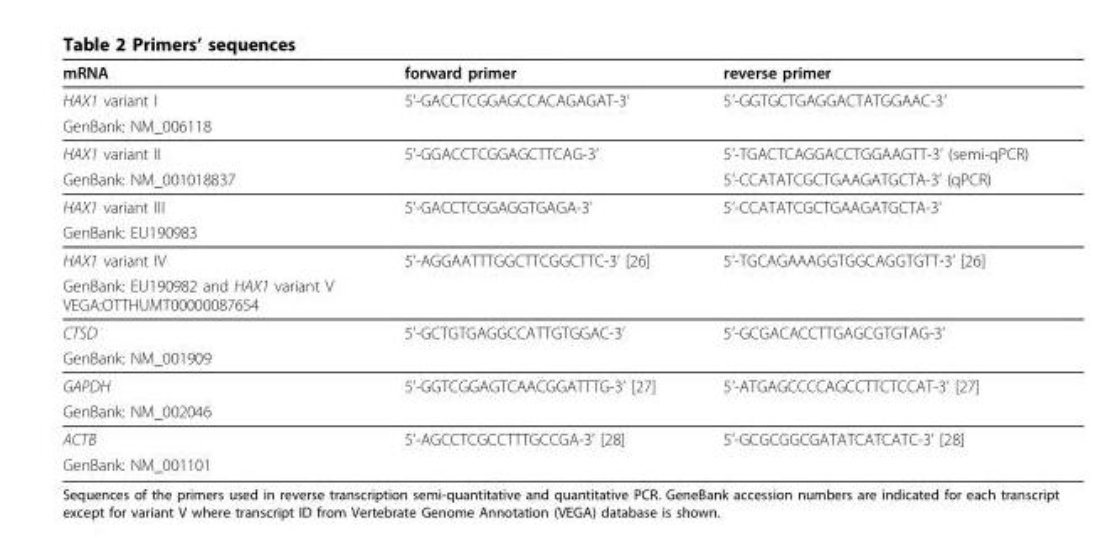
<table><thead><tr><td>mRNA</td><td>forward primer</td><td>reverse primer</td></tr></thead><tbody><tr><td>HAX1 variant I</td><td>5’-GACCTCGGAGCCACAGAGAT-3’</td><td>5’-GGTGCTGAGGACTATGGAAC-3’</td></tr><tr><td colspan="3">GenBank: NM_006118</td></tr><tr><td>HAX1 variant II</td><td>5’-GGACCTCGGAGCTTCAG-3’</td><td>5’-TGACTCAGGACCTGGAAGTT-3’ (semi-qPCR)</td></tr><tr><td>GenBank: NM_001018837</td><td></td><td>5’-CCATATCGCTGAAGATGCTA-3’ (qPCR)</td></tr><tr><td>HAX1 variant III</td><td>5’-GACCTCGGAGGTGAGA-3’</td><td>5’-CCATATCGCTGAAGATGCTA-3’</td></tr><tr><td colspan="3">GenBank: EU190983</td></tr><tr><td>HAX1 variant IV</td><td>5’-AGGAATTTGGCTTCGGCTTC-3’ [26]</td><td>5’-TGCAGAAAGGTGGCAGGTGTT-3’ [26]</td></tr><tr><td colspan="3">GenBank: EU190982 and HAX1 variant V VEGA:OTTHUMT00000087654</td></tr><tr><td>CTSD</td><td>5’-GCTGTGAGGCCATTGTGGAC-3’</td><td>5’-GCGACACCTTGAGCGTGTAG-3’</td></tr><tr><td colspan="3">GenBank: NM_001909</td></tr><tr><td>GAPDH</td><td>5’-GGTCGGAGTCAACGGATTTG-3’ [27]</td><td>5’-ATGAGCCCCAGCCTTCTCCAT-3’ [27]</td></tr><tr><td colspan="3">GenBank: NM_002046</td></tr><tr><td>ACTB</td><td>5’-AGCCTCGCCTTTGCCGA-3’ [28]</td><td>5’-GCGCGGCGATATCATCATC-3’ [28]</td></tr><tr><td>GenBank: NM_001101</td><td></td><td></td></tr></tbody></table>